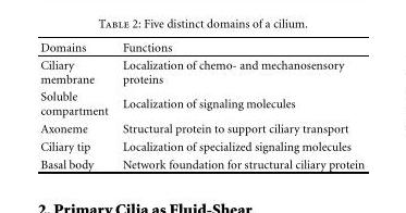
<table><thead><tr><td>Domains</td><td>Functions</td></tr></thead><tbody><tr><td>Ciliary membrane</td><td>Localization of chemo- and mechanosensory proteins</td></tr><tr><td>Soluble compartment</td><td>Localization of signaling molecules</td></tr><tr><td>Axoneme</td><td>Structural protein to support ciliary transport</td></tr><tr><td>Ciliary tip</td><td>Localization of specialized signaling molecules</td></tr><tr><td>Basal body</td><td>Network foundation for structural ciliary protein</td></tr></tbody></table>